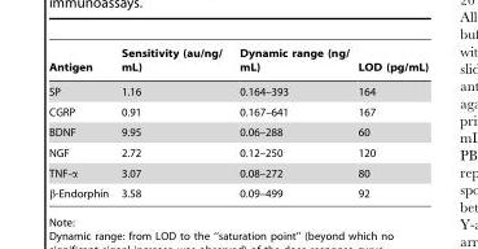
<table><thead><tr><td>Antigen</td><td>Sensitivity (au/ng/ mL)</td><td>Dynamic range (ng/ mL)</td><td>LOD (pg/mL)</td></tr></thead><tbody><tr><td>SP</td><td>1.16</td><td>0.164–393</td><td>164</td></tr><tr><td>CGRP</td><td>0.91</td><td>0.167–641</td><td>167</td></tr><tr><td>BDNF</td><td>9.95</td><td>0.06–288</td><td>60</td></tr><tr><td>NGF</td><td>2.72</td><td>0.12–250</td><td>120</td></tr><tr><td>TNF-α</td><td>3.07</td><td>0.08–272</td><td>80</td></tr><tr><td>β-Endorphin</td><td>3.58</td><td>0.09–499</td><td>92</td></tr></tbody></table>